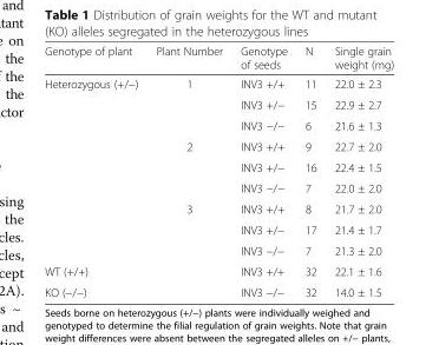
<table><thead><tr><td>Genotype of plant</td><td>Plant Number</td><td>Genotype of seeds</td><td>N</td><td>Single grain weight (mg)</td></tr></thead><tbody><tr><td rowspan="9">Heterozygous (+/−)</td><td rowspan="3">1</td><td>INV3 +/+</td><td>11</td><td>22.0 ± 2.3</td></tr><tr><td>INV3 +/−</td><td>15</td><td>22.9 ± 2.7</td></tr><tr><td>INV3 −/−</td><td>6</td><td>21.6 ± 1.3</td></tr><tr><td rowspan="3">2</td><td>INV3 +/+</td><td>9</td><td>22.7 ± 2.0</td></tr><tr><td>INV3 +/−</td><td>16</td><td>22.4 ± 1.5</td></tr><tr><td>INV3 −/−</td><td>7</td><td>22.0 ± 2.0</td></tr><tr><td rowspan="3">3</td><td>INV3 +/+</td><td>8</td><td>21.7 ± 2.0</td></tr><tr><td>INV3 +/−</td><td>17</td><td>21.4 ± 1.7</td></tr><tr><td>INV3 −/−</td><td>7</td><td>21.3 ± 2.0</td></tr><tr><td>WT (+/+)</td><td></td><td>INV3 +/+</td><td>32</td><td>22.1 ± 1.6</td></tr><tr><td>KO (−/−)</td><td></td><td>INV3 −/−</td><td>32</td><td>14.0 ± 1.5</td></tr></tbody></table>